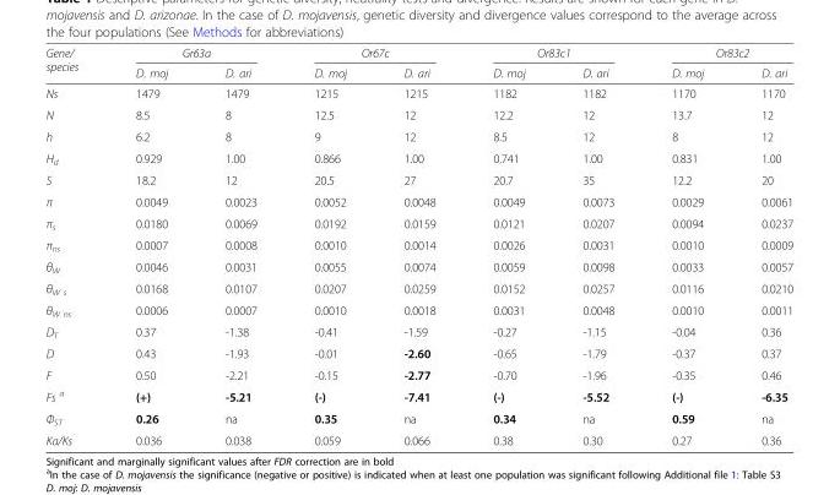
<table><thead><tr><td rowspan="2">Gene/ species</td><td colspan="2">Gr63a</td><td colspan="2">Or67c</td><td colspan="2">Or83c1</td><td colspan="2">Or83c2</td></tr><tr><td>D. moj</td><td>D. ari</td><td>D. moj</td><td>D. ari</td><td>D. moj</td><td>D. ari</td><td>D. moj</td><td>D. ari</td></tr></thead><tbody><tr><td>Ns</td><td>1479</td><td>1479</td><td>1215</td><td>1215</td><td>1182</td><td>1182</td><td>1170</td><td>1170</td></tr><tr><td>N</td><td>8.5</td><td>8</td><td>12.5</td><td>12</td><td>12.2</td><td>12</td><td>13.7</td><td>12</td></tr><tr><td>h</td><td>6.2</td><td>8</td><td>9</td><td>12</td><td>8.5</td><td>12</td><td>8</td><td>12</td></tr><tr><td>H<sub>d</sub></td><td>0.929</td><td>1.00</td><td>0.866</td><td>1.00</td><td>0.741</td><td>1.00</td><td>0.831</td><td>1.00</td></tr><tr><td>S</td><td>18.2</td><td>12</td><td>20.5</td><td>27</td><td>20.7</td><td>35</td><td>12.2</td><td>20</td></tr><tr><td>π</td><td>0.0049</td><td>0.0023</td><td>0.0052</td><td>0.0048</td><td>0.0049</td><td>0.0073</td><td>0.0029</td><td>0.0061</td></tr><tr><td>π<sub>s</sub></td><td>0.0180</td><td>0.0069</td><td>0.0192</td><td>0.0159</td><td>0.0121</td><td>0.0207</td><td>0.0094</td><td>0.0237</td></tr><tr><td>π<sub>ns</sub></td><td>0.0007</td><td>0.0008</td><td>0.0010</td><td>0.0014</td><td>0.0026</td><td>0.0031</td><td>0.0010</td><td>0.0009</td></tr><tr><td>θ<sub>W</sub></td><td>0.0046</td><td>0.0031</td><td>0.0055</td><td>0.0074</td><td>0.0059</td><td>0.0098</td><td>0.0033</td><td>0.0057</td></tr><tr><td>θ<sub>W s</sub></td><td>0.0168</td><td>0.0107</td><td>0.0207</td><td>0.0259</td><td>0.0152</td><td>0.0257</td><td>0.0116</td><td>0.0210</td></tr><tr><td>θ<sub>W ns</sub></td><td>0.0006</td><td>0.0007</td><td>0.0010</td><td>0.0018</td><td>0.0031</td><td>0.0048</td><td>0.0010</td><td>0.0011</td></tr><tr><td>D<sub>T</sub></td><td>0.37</td><td>-1.38</td><td>-0.41</td><td>-1.59</td><td>-0.27</td><td>-1.15</td><td>-0.04</td><td>0.36</td></tr><tr><td>D</td><td>0.43</td><td>-1.93</td><td>-0.01</td><td>-2.60</td><td>-0.65</td><td>-1.79</td><td>-0.37</td><td>0.37</td></tr><tr><td>F</td><td>0.50</td><td>-2.21</td><td>-0.15</td><td>-2.77</td><td>-0.70</td><td>-1.96</td><td>-0.35</td><td>0.46</td></tr><tr><td>Fs <sup>a</sup></td><td>(+)</td><td>-5.21</td><td>(-)</td><td>-7.41</td><td>(-)</td><td>-5.52</td><td>(-)</td><td>-6.35</td></tr><tr><td>Φ<sub>ST</sub></td><td>0.26</td><td>na</td><td>0.35</td><td>na</td><td>0.34</td><td>na</td><td>0.59</td><td>na</td></tr><tr><td>Ka/Ks</td><td>0.036</td><td>0.038</td><td>0.059</td><td>0.066</td><td>0.38</td><td>0.30</td><td>0.27</td><td>0.36</td></tr></tbody></table>